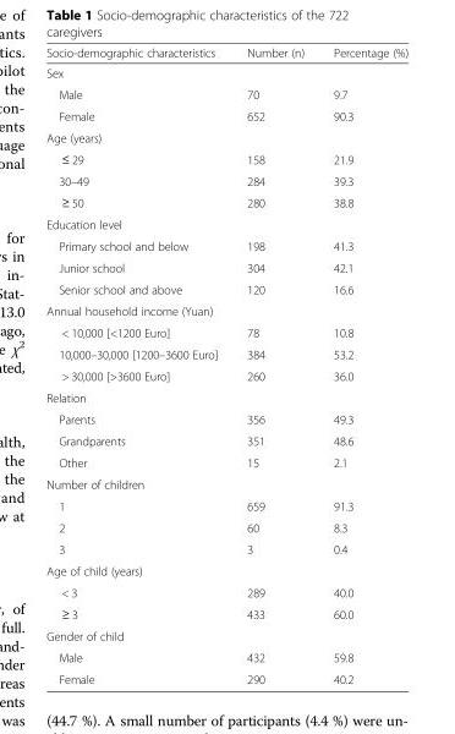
<table><thead><tr><td>Socio-demographic characteristics</td><td>Number (n)</td><td>Percentage (%)</td></tr></thead><tbody><tr><td colspan="3">Sex</td></tr><tr><td>Male</td><td>70</td><td>9.7</td></tr><tr><td>Female</td><td>652</td><td>90.3</td></tr><tr><td colspan="3">Age (years)</td></tr><tr><td>≤ 29</td><td>158</td><td>21.9</td></tr><tr><td>30–49</td><td>284</td><td>39.3</td></tr><tr><td>≥ 50</td><td>280</td><td>38.8</td></tr><tr><td colspan="3">Education level</td></tr><tr><td>Primary school and below</td><td>198</td><td>41.3</td></tr><tr><td>Junior school</td><td>304</td><td>42.1</td></tr><tr><td>Senior school and above</td><td>120</td><td>16.6</td></tr><tr><td colspan="3">Annual household income (Yuan)</td></tr><tr><td>&lt; 10,000 [&lt;1200 Euro]</td><td>78</td><td>10.8</td></tr><tr><td>10,000–30,000 [1200–3600 Euro]</td><td>384</td><td>53.2</td></tr><tr><td>&gt; 30,000 [&gt;3600 Euro]</td><td>260</td><td>36.0</td></tr><tr><td colspan="3">Relation</td></tr><tr><td>Parents</td><td>356</td><td>49.3</td></tr><tr><td>Grandparents</td><td>351</td><td>48.6</td></tr><tr><td>Other</td><td>15</td><td>2.1</td></tr><tr><td colspan="3">Number of children</td></tr><tr><td>1</td><td>659</td><td>91.3</td></tr><tr><td>2</td><td>60</td><td>8.3</td></tr><tr><td>3</td><td>3</td><td>0.4</td></tr><tr><td colspan="3">Age of child (years)</td></tr><tr><td>&lt; 3</td><td>289</td><td>40.0</td></tr><tr><td>≥ 3</td><td>433</td><td>60.0</td></tr><tr><td colspan="3">Gender of child</td></tr><tr><td>Male</td><td>432</td><td>59.8</td></tr><tr><td>Female</td><td>290</td><td>40.2</td></tr></tbody></table>